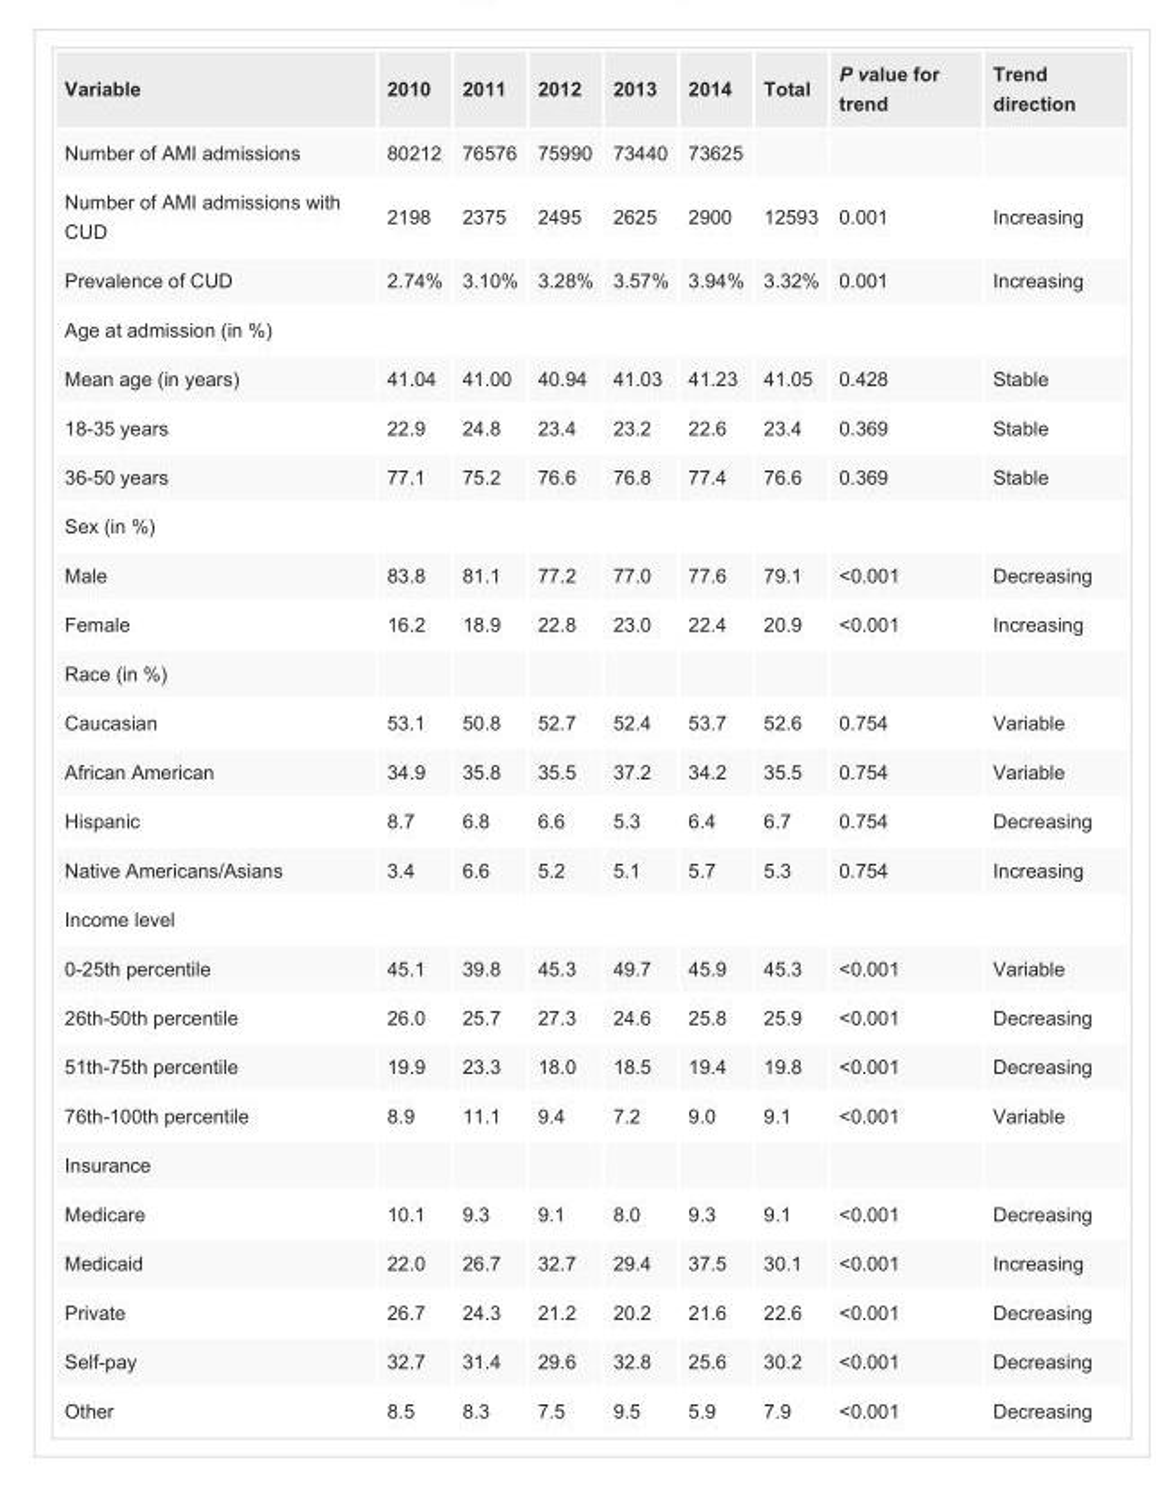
<table><tbody><tr><td>Variable</td><td>2010</td><td>2011</td><td>2012</td><td>2013</td><td>2014</td><td>Total</td><td>P value for trend</td><td>Trend direction</td></tr><tr><td>Number of AMI admissions</td><td>80212</td><td>76576</td><td>75990</td><td>73440</td><td>73625</td><td></td><td></td><td></td></tr><tr><td>Number of AMI admissions with CUD</td><td>2198</td><td>2375</td><td>2495</td><td>2625</td><td>2900</td><td>12593</td><td>0.001</td><td>Increasing</td></tr><tr><td>Prevalence of CUD</td><td>2.74%</td><td>3.10%</td><td>3.28%</td><td>3.57%</td><td>3.94%</td><td>3.32%</td><td>0.001</td><td>Increasing</td></tr><tr><td colspan="9">Age at admission (in %)</td></tr><tr><td>Mean age (in years)</td><td>41.04</td><td>41.00</td><td>40.94</td><td>41.03</td><td>41.23</td><td>41.05</td><td>0.428</td><td>Stable</td></tr><tr><td>18-35 years</td><td>22.9</td><td>24.8</td><td>23.4</td><td>23.2</td><td>22.6</td><td>23.4</td><td>0.369</td><td>Stable</td></tr><tr><td>36-50 years</td><td>77.1</td><td>75.2</td><td>76.6</td><td>76.8</td><td>77.4</td><td>76.6</td><td>0.369</td><td>Stable</td></tr><tr><td colspan="9">Sex (in %)</td></tr><tr><td>Male</td><td>83.8</td><td>81.1</td><td>77.2</td><td>77.0</td><td>77.6</td><td>79.1</td><td>&lt;0.001</td><td>Decreasing</td></tr><tr><td>Female</td><td>16.2</td><td>18.9</td><td>22.8</td><td>23.0</td><td>22.4</td><td>20.9</td><td>&lt;0.001</td><td>Increasing</td></tr><tr><td colspan="9">Race (in %)</td></tr><tr><td>Caucasian</td><td>53.1</td><td>50.8</td><td>52.7</td><td>52.4</td><td>53.7</td><td>52.6</td><td>0.754</td><td>Variable</td></tr><tr><td>African American</td><td>34.9</td><td>35.8</td><td>35.5</td><td>37.2</td><td>34.2</td><td>35.5</td><td>0.754</td><td>Variable</td></tr><tr><td>Hispanic</td><td>8.7</td><td>6.8</td><td>6.6</td><td>5.3</td><td>6.4</td><td>6.7</td><td>0.754</td><td>Decreasing</td></tr><tr><td>Native Americans/Asians</td><td>3.4</td><td>6.6</td><td>5.2</td><td>5.1</td><td>5.7</td><td>5.3</td><td>0.754</td><td>Increasing</td></tr><tr><td colspan="9">Income level</td></tr><tr><td>0-25th percentile</td><td>45.1</td><td>39.8</td><td>45.3</td><td>49.7</td><td>45.9</td><td>45.3</td><td>&lt;0.001</td><td>Variable</td></tr><tr><td>26th-50th percentile</td><td>26.0</td><td>25.7</td><td>27.3</td><td>24.6</td><td>25.8</td><td>25.9</td><td>&lt;0.001</td><td>Decreasing</td></tr><tr><td>51th-75th percentile</td><td>19.9</td><td>23.3</td><td>18.0</td><td>18.5</td><td>19.4</td><td>19.8</td><td>&lt;0.001</td><td>Decreasing</td></tr><tr><td>76th-100th percentile</td><td>8.9</td><td>11.1</td><td>9.4</td><td>7.2</td><td>9.0</td><td>9.1</td><td>&lt;0.001</td><td>Variable</td></tr><tr><td colspan="9">Insurance</td></tr><tr><td>Medicare</td><td>10.1</td><td>9.3</td><td>9.1</td><td>8.0</td><td>9.3</td><td>9.1</td><td>&lt;0.001</td><td>Decreasing</td></tr><tr><td>Medicaid</td><td>22.0</td><td>26.7</td><td>32.7</td><td>29.4</td><td>37.5</td><td>30.1</td><td>&lt;0.001</td><td>Increasing</td></tr><tr><td>Private</td><td>26.7</td><td>24.3</td><td>21.2</td><td>20.2</td><td>21.6</td><td>22.6</td><td>&lt;0.001</td><td>Decreasing</td></tr><tr><td>Self-pay</td><td>32.7</td><td>31.4</td><td>29.6</td><td>32.8</td><td>25.6</td><td>30.2</td><td>&lt;0.001</td><td>Decreasing</td></tr><tr><td>Other</td><td>8.5</td><td>8.3</td><td>7.5</td><td>9.5</td><td>5.9</td><td>7.9</td><td>&lt;0.001</td><td>Decreasing</td></tr></tbody></table>